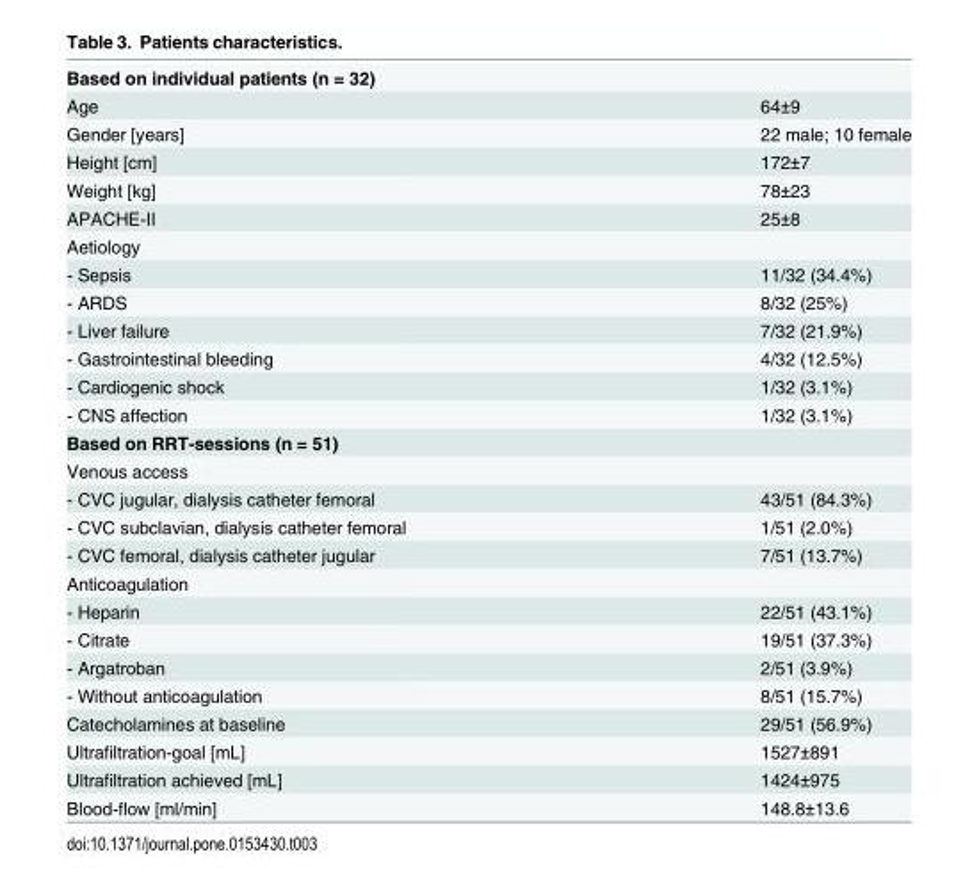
<table><tbody><tr><td colspan="2">Based on individual patients (n = 32)</td></tr><tr><td>Age</td><td>64±9</td></tr><tr><td>Gender [years]</td><td>22 male; 10 female</td></tr><tr><td>Height [cm]</td><td>172±7</td></tr><tr><td>Weight [kg]</td><td>78±23</td></tr><tr><td>APACHE-II</td><td>25±8</td></tr><tr><td colspan="2">Aetiology</td></tr><tr><td>- Sepsis</td><td>11/32 (34.4%)</td></tr><tr><td>- ARDS</td><td>8/32 (25%)</td></tr><tr><td>- Liver failure</td><td>7/32 (21.9%)</td></tr><tr><td>- Gastrointestinal bleeding</td><td>4/32 (12.5%)</td></tr><tr><td>- Cardiogenic shock</td><td>1/32 (3.1%)</td></tr><tr><td>- CNS affection</td><td>1/32 (3.1%)</td></tr><tr><td colspan="2">Based on RRT-sessions (n = 51)</td></tr><tr><td colspan="2">Venous access</td></tr><tr><td>- CVC jugular, dialysis catheter femoral</td><td>43/51 (84.3%)</td></tr><tr><td>- CVC subclavian, dialysis catheter femoral</td><td>1/51 (2.0%)</td></tr><tr><td>- CVC femoral, dialysis catheter jugular</td><td>7/51 (13.7%)</td></tr><tr><td colspan="2">Anticoagulation</td></tr><tr><td>- Heparin</td><td>22/51 (43.1%)</td></tr><tr><td>- Citrate</td><td>19/51 (37.3%)</td></tr><tr><td>- Argatroban</td><td>2/51 (3.9%)</td></tr><tr><td>- Without anticoagulation</td><td>8/51 (15.7%)</td></tr><tr><td>Catecholamines at baseline</td><td>29/51 (56.9%)</td></tr><tr><td>Ultrafiltration-goal [mL]</td><td>1527±891</td></tr><tr><td>Ultrafiltration achieved [mL]</td><td>1424±975</td></tr><tr><td>Blood-flow [ml/min]</td><td>148.8±13.6</td></tr></tbody></table>